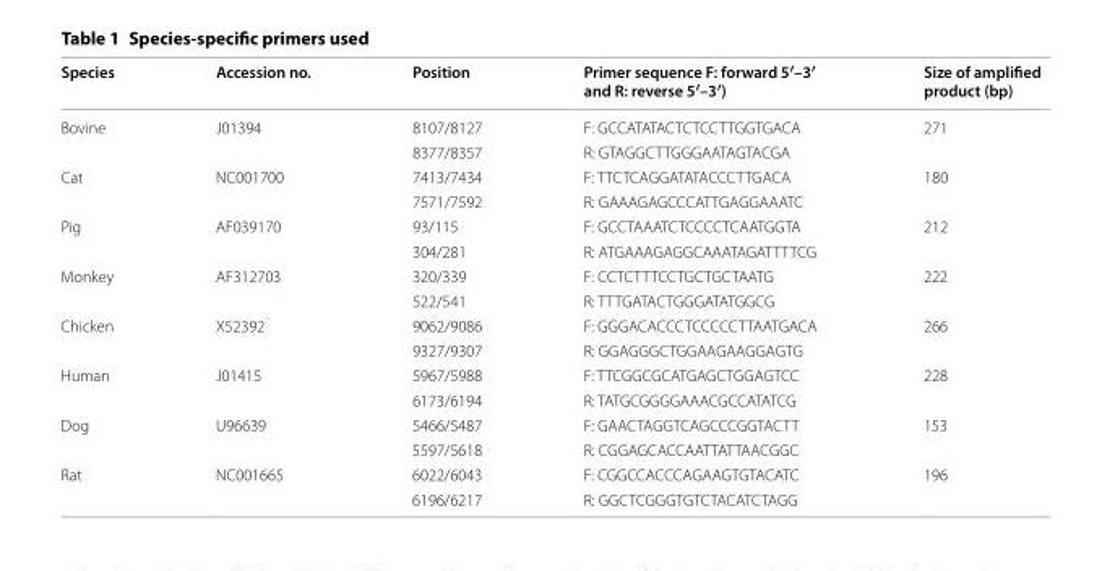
<table><thead><tr><td>Species</td><td>Accession no.</td><td>Position</td><td>Primer sequence F: forward 5′–3′ and R: reverse 5′–3′)</td><td>Size of amplified product (bp)</td></tr></thead><tbody><tr><td rowspan="2">Bovine</td><td rowspan="2">J01394</td><td>8107/8127</td><td>F: GCCATATACTCTCCTTGGTGACA</td><td rowspan="2">271</td></tr><tr><td>8377/8357</td><td>R: GTAGGCTTGGGAATAGTACGA</td></tr><tr><td rowspan="2">Cat</td><td rowspan="2">NC001700</td><td>7413/7434</td><td>F: TTCTCAGGATATACCCTTGACA</td><td rowspan="2">180</td></tr><tr><td>7571/7592</td><td>R: GAAAGAGCCCATTGAGGAAATC</td></tr><tr><td rowspan="2">Pig</td><td rowspan="2">AF039170</td><td>93/115</td><td>F: GCCTAAATCTCCCCTCAATGGTA</td><td rowspan="2">212</td></tr><tr><td>304/281</td><td>R: ATGAAAGAGGCAAATAGATTTTCG</td></tr><tr><td rowspan="2">Monkey</td><td rowspan="2">AF312703</td><td>320/339</td><td>F: CCTCTTTCCTGCTGCTAATG</td><td rowspan="2">222</td></tr><tr><td>522/541</td><td>R: TTTGATACTGGGATATGGCG</td></tr><tr><td rowspan="2">Chicken</td><td rowspan="2">X52392</td><td>9062/9086</td><td>F: GGGACACCCTCCCCCTTAATGACA</td><td rowspan="2">266</td></tr><tr><td>9327/9307</td><td>R: GGAGGGCTGGAAGAAGGAGTG</td></tr><tr><td rowspan="2">Human</td><td rowspan="2">J01415</td><td>5967/5988</td><td>F: TTCGGCGCATGAGCTGGAGTCC</td><td rowspan="2">228</td></tr><tr><td>6173/6194</td><td>R: TATGCGGGGAAACGCCATATCG</td></tr><tr><td rowspan="2">Dog</td><td rowspan="2">U96639</td><td>5466/5487</td><td>F: GAACTAGGTCAGCCCGGTACTT</td><td rowspan="2">153</td></tr><tr><td>5597/5618</td><td>R: CGGAGCACCAATTATTAACGGC</td></tr><tr><td rowspan="2">Rat</td><td rowspan="2">NC001665</td><td>6022/6043</td><td>F: CGGCCACCCAGAAGTGTACATC</td><td rowspan="2">196</td></tr><tr><td>6196/6217</td><td>R: GGCTCGGGTGTCTACATCTAGG</td></tr></tbody></table>